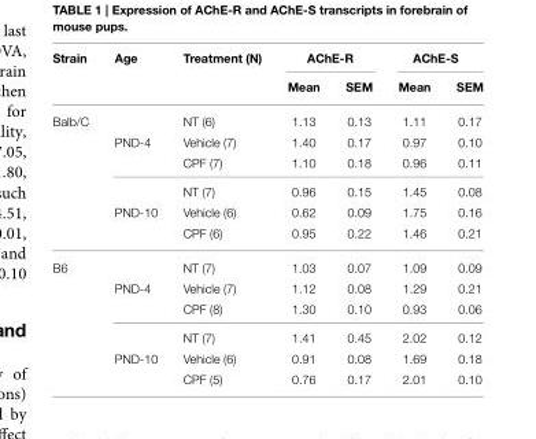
<table><thead><tr><td rowspan="2">Strain</td><td rowspan="2">Age</td><td rowspan="2">Treatment (N)</td><td colspan="2">AChE-R</td><td colspan="2">AChE-S</td></tr><tr><td>Mean</td><td>SEM</td><td>Mean</td><td>SEM</td></tr></thead><tbody><tr><td rowspan="6">Balb/C</td><td></td><td>NT (6)</td><td>1.13</td><td>0.13</td><td>1.11</td><td>0.17</td></tr><tr><td>PND-4</td><td>Vehicle (7)</td><td>1.40</td><td>0.17</td><td>0.97</td><td>0.10</td></tr><tr><td></td><td>CPF (7)</td><td>1.10</td><td>0.18</td><td>0.96</td><td>0.11</td></tr><tr><td></td><td>NT (7)</td><td>0.96</td><td>0.15</td><td>1.45</td><td>0.08</td></tr><tr><td>PND-10</td><td>Vehicle (6)</td><td>0.62</td><td>0.09</td><td>1.75</td><td>0.16</td></tr><tr><td></td><td>CPF (6)</td><td>0.95</td><td>0.22</td><td>1.46</td><td>0.21</td></tr><tr><td rowspan="6">B6</td><td></td><td>NT (7)</td><td>1.03</td><td>0.07</td><td>1.09</td><td>0.09</td></tr><tr><td>PND-4</td><td>Vehicle (7)</td><td>1.12</td><td>0.08</td><td>1.29</td><td>0.21</td></tr><tr><td></td><td>CPF (8)</td><td>1.30</td><td>0.10</td><td>0.93</td><td>0.06</td></tr><tr><td></td><td>NT (7)</td><td>1.41</td><td>0.45</td><td>2.02</td><td>0.12</td></tr><tr><td>PND-10</td><td>Vehicle (6)</td><td>0.91</td><td>0.08</td><td>1.69</td><td>0.18</td></tr><tr><td></td><td>CPF (5)</td><td>0.76</td><td>0.17</td><td>2.01</td><td>0.10</td></tr></tbody></table>